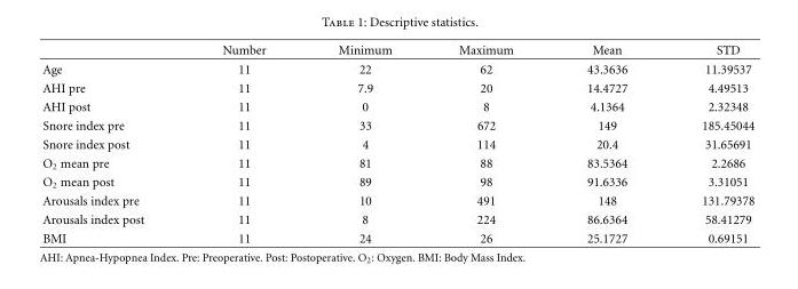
<table><thead><tr><td></td><td>Number</td><td>Minimum</td><td>Maximum</td><td>Mean</td><td>STD</td></tr></thead><tbody><tr><td>Age</td><td>11</td><td>22</td><td>62</td><td>43.3636</td><td>11.39537</td></tr><tr><td>AHI pre</td><td>11</td><td>7.9</td><td>20</td><td>14.4727</td><td>4.49513</td></tr><tr><td>AHI post</td><td>11</td><td>0</td><td>8</td><td>4.1364</td><td>2.32348</td></tr><tr><td>Snore index pre</td><td>11</td><td>33</td><td>672</td><td>149</td><td>185.45044</td></tr><tr><td>Snore index post</td><td>11</td><td>4</td><td>114</td><td>20.4</td><td>31.65691</td></tr><tr><td>O<sub>2</sub> mean pre</td><td>11</td><td>81</td><td>88</td><td>83.5364</td><td>2.2686</td></tr><tr><td>O<sub>2</sub> mean post</td><td>11</td><td>89</td><td>98</td><td>91.6336</td><td>3.31051</td></tr><tr><td>Arousals index pre</td><td>11</td><td>10</td><td>491</td><td>148</td><td>131.79378</td></tr><tr><td>Arousals index post</td><td>11</td><td>8</td><td>224</td><td>86.6364</td><td>58.41279</td></tr><tr><td>BMI</td><td>11</td><td>24</td><td>26</td><td>25.1727</td><td>0.69151</td></tr></tbody></table>